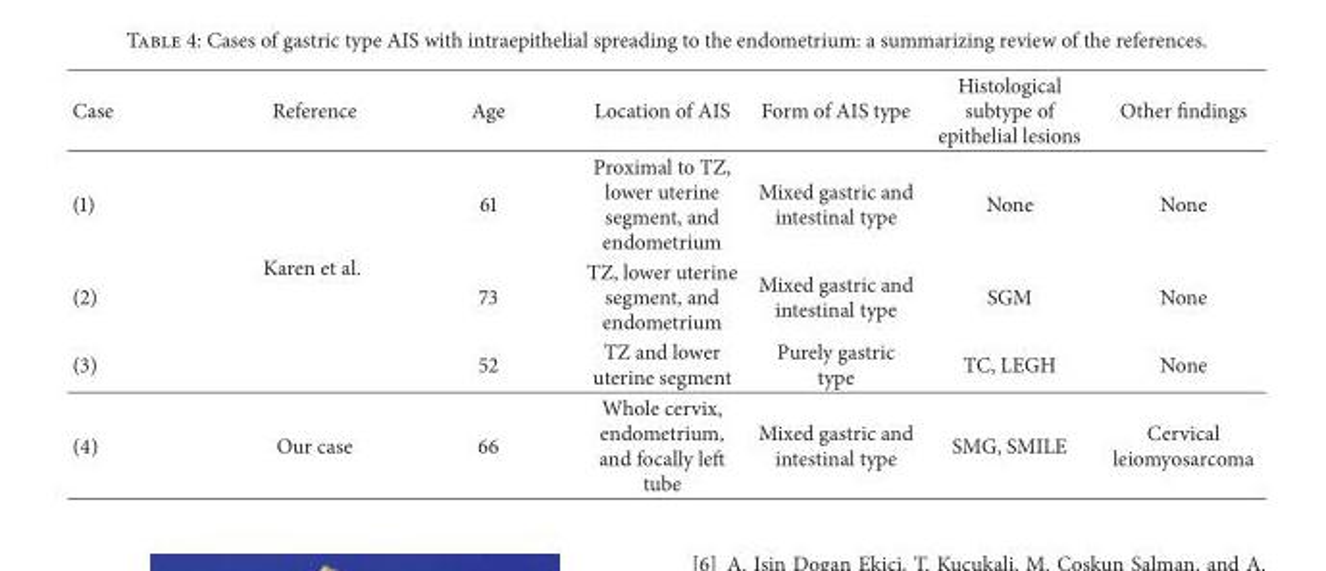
<table><thead><tr><td>Case</td><td>Reference</td><td>Age</td><td>Location of AIS</td><td>Form of AIS type</td><td>Histological subtype of epithelial lesions</td><td>Other findings</td></tr></thead><tbody><tr><td>(1)</td><td rowspan="3">Karen et al.</td><td>61</td><td>Proximal to TZ, lower uterine segment, and endometrium</td><td>Mixed gastric and intestinal type</td><td>None</td><td>None</td></tr><tr><td>(2)</td><td>73</td><td>TZ, lower uterine segment, and endometrium</td><td>Mixed gastric and intestinal type</td><td>SGM</td><td>None</td></tr><tr><td>(3)</td><td>52</td><td>TZ and lower uterine segment</td><td>Purely gastric type</td><td>TC, LEGH</td><td>None</td></tr><tr><td>(4)</td><td>Our case</td><td>66</td><td>Whole cervix, endometrium, and focally left tube</td><td>Mixed gastric and intestinal type</td><td>SMG, SMILE</td><td>Cervical leiomyosarcoma</td></tr></tbody></table>